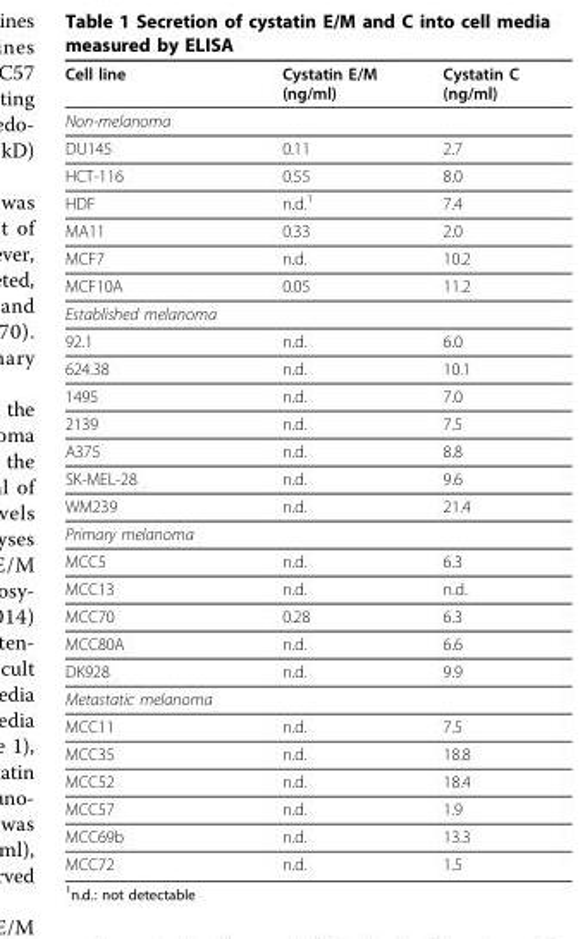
<table><thead><tr><td>Cell line</td><td>Cystatin E/M (ng/ml)</td><td>Cystatin C (ng/ml)</td></tr></thead><tbody><tr><td colspan="3">Non-melanoma</td></tr><tr><td>DU145</td><td>0.11</td><td>2.7</td></tr><tr><td>HCT-116</td><td>0.55</td><td>8.0</td></tr><tr><td>HDF</td><td>n.d.<sup>1</sup></td><td>7.4</td></tr><tr><td>MA11</td><td>0.33</td><td>2.0</td></tr><tr><td>MCF7</td><td>n.d.</td><td>10.2</td></tr><tr><td>MCF10A</td><td>0.05</td><td>11.2</td></tr><tr><td colspan="3">Established melanoma</td></tr><tr><td>92.1</td><td>n.d.</td><td>6.0</td></tr><tr><td>624.38</td><td>n.d.</td><td>10.1</td></tr><tr><td>1495</td><td>n.d.</td><td>7.0</td></tr><tr><td>2139</td><td>n.d.</td><td>7.5</td></tr><tr><td>A375</td><td>n.d.</td><td>8.8</td></tr><tr><td>SK-MEL-28</td><td>n.d.</td><td>9.6</td></tr><tr><td>WM239</td><td>n.d.</td><td>21.4</td></tr><tr><td colspan="3">Primary melanoma</td></tr><tr><td>MCC5</td><td>n.d.</td><td>6.3</td></tr><tr><td>MCC13</td><td>n.d.</td><td>n.d.</td></tr><tr><td>MCC70</td><td>0.28</td><td>6.3</td></tr><tr><td>MCC80A</td><td>n.d.</td><td>6.6</td></tr><tr><td>DK928</td><td>n.d.</td><td>9.9</td></tr><tr><td colspan="3">Metastatic melanoma</td></tr><tr><td>MCC11</td><td>n.d.</td><td>7.5</td></tr><tr><td>MCC35</td><td>n.d.</td><td>18.8</td></tr><tr><td>MCC52</td><td>n.d.</td><td>18.4</td></tr><tr><td>MCC57</td><td>n.d.</td><td>1.9</td></tr><tr><td>MCC69b</td><td>n.d.</td><td>13.3</td></tr><tr><td>MCC72</td><td>n.d.</td><td>1.5</td></tr></tbody></table>